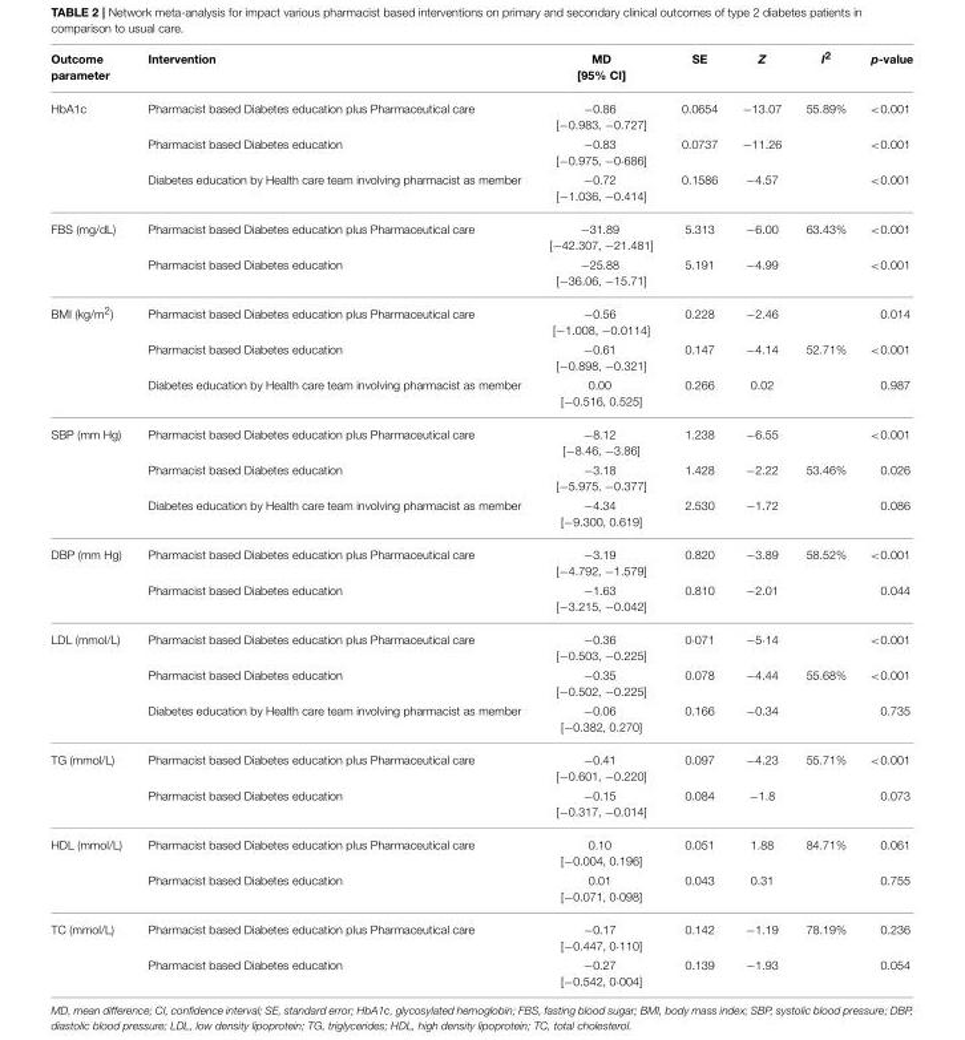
<table><thead><tr><td>Outcome parameter</td><td>Intervention</td><td>MD [95% CI]</td><td>SE</td><td>Z</td><td>I<sup>2</sup></td><td>p-value</td></tr></thead><tbody><tr><td rowspan="3">HbA1c</td><td>Pharmacist based Diabetes education plus Pharmaceutical care</td><td>−0.86 [−0.983, −0.727]</td><td>0.0654</td><td>−13.07</td><td>55.89%</td><td>&lt;0.001</td></tr><tr><td>Pharmacist based Diabetes education</td><td>−0.83 [−0.975, −0·686]</td><td>0.0737</td><td>−11.26</td><td></td><td>&lt;0.001</td></tr><tr><td>Diabetes education by Health care team involving pharmacist as member</td><td>−0.72 [−1.036, −0.414]</td><td>0.1586</td><td>−4.57</td><td></td><td>&lt;0.001</td></tr><tr><td rowspan="2">FBS (mg/dL)</td><td>Pharmacist based Diabetes education plus Pharmaceutical care</td><td>−31.89 [−42.307, −21.481]</td><td>5.313</td><td>−6.00</td><td>63.43%</td><td>&lt;0.001</td></tr><tr><td>Pharmacist based Diabetes education</td><td>−25.88 [−36.06, −15.71]</td><td>5.191</td><td>−4.99</td><td></td><td>&lt;0.001</td></tr><tr><td rowspan="3">BMI (kg/m<sup>2</sup>)</td><td>Pharmacist based Diabetes education plus Pharmaceutical care</td><td>−0.56 [−1.008, −0.0114]</td><td>0.228</td><td>−2.46</td><td></td><td>0.014</td></tr><tr><td>Pharmacist based Diabetes education</td><td>−0.61 [−0.898, −0.321]</td><td>0.147</td><td>−4.14</td><td>52.71%</td><td>&lt;0.001</td></tr><tr><td>Diabetes education by Health care team involving pharmacist as member</td><td>0.00 [−0.516, 0.525]</td><td>0.266</td><td>0.02</td><td></td><td>0.987</td></tr><tr><td rowspan="3">SBP (mm Hg)</td><td>Pharmacist based Diabetes education plus Pharmaceutical care</td><td>−8.12 [−8.46, −3.86]</td><td>1.238</td><td>−6.55</td><td></td><td>&lt;0.001</td></tr><tr><td>Pharmacist based Diabetes education</td><td>−3.18 [−5.975, −0.377]</td><td>1.428</td><td>−2.22</td><td>53.46%</td><td>0.026</td></tr><tr><td>Diabetes education by Health care team involving pharmacist as member</td><td>−4.34 [−9.300, 0.619]</td><td>2.530</td><td>−1.72</td><td></td><td>0.086</td></tr><tr><td rowspan="2">DBP (mm Hg)</td><td>Pharmacist based Diabetes education plus Pharmaceutical care</td><td>−3.19 [−4.792, −1.579]</td><td>0.820</td><td>−3.89</td><td>58.52%</td><td>&lt;0.001</td></tr><tr><td>Pharmacist based Diabetes education</td><td>−1.63 [−3.215, −0.042]</td><td>0.810</td><td>−2.01</td><td></td><td>0.044</td></tr><tr><td rowspan="3">LDL (mmol/L)</td><td>Pharmacist based Diabetes education plus Pharmaceutical care</td><td>−0.36 [−0.503, −0.225]</td><td>0·071</td><td>−5·14</td><td></td><td>&lt;0.001</td></tr><tr><td>Pharmacist based Diabetes education</td><td>−0.35 [−0.502, −0.225]</td><td>0.078</td><td>−4.44</td><td>55.68%</td><td>&lt;0.001</td></tr><tr><td>Diabetes education by Health care team involving pharmacist as member</td><td>−0.06 [−0.382, 0.270]</td><td>0.166</td><td>−0.34</td><td></td><td>0.735</td></tr><tr><td rowspan="2">TG (mmol/L)</td><td>Pharmacist based Diabetes education plus Pharmaceutical care</td><td>−0.41 [−0.601, −0.220]</td><td>0.097</td><td>−4.23</td><td>55.71%</td><td>&lt;0.001</td></tr><tr><td>Pharmacist based Diabetes education</td><td>−0.15 [−0.317, −0.014]</td><td>0.084</td><td>−1.8</td><td></td><td>0.073</td></tr><tr><td rowspan="2">HDL (mmol/L)</td><td>Pharmacist based Diabetes education plus Pharmaceutical care</td><td>0.10 [−0.004, 0.196]</td><td>0.051</td><td>1.88</td><td>84.71%</td><td>0.061</td></tr><tr><td>Pharmacist based Diabetes education</td><td>0.01 [−0.071, 0·098]</td><td>0.043</td><td>0.31</td><td></td><td>0.755</td></tr><tr><td rowspan="2">TC (mmol/L)</td><td>Pharmacist based Diabetes education plus Pharmaceutical care</td><td>−0.17 [−0.447, 0·110]</td><td>0.142</td><td>−1.19</td><td>78.19%</td><td>0.236</td></tr><tr><td>Pharmacist based Diabetes education</td><td>−0.27 [−0.542, 0·004]</td><td>0.139</td><td>−1.93</td><td></td><td>0.054</td></tr></tbody></table>